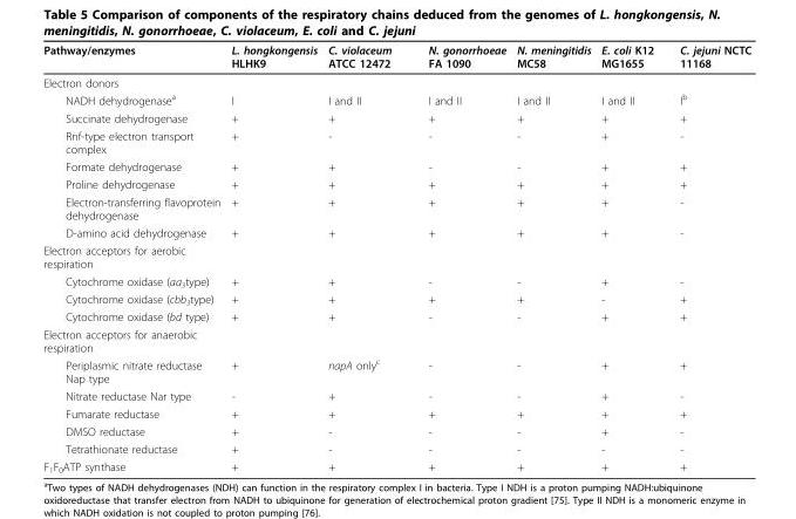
<table><thead><tr><td>Pathway/enzymes</td><td>L. hongkongensis HLHK9</td><td>C. violaceum ATCC 12472</td><td>N. gonorrhoeae FA 1090</td><td>N. meningitidis MC58</td><td>E. coli K12 MG1655</td><td>C. jejuni NCTC 11168</td></tr></thead><tbody><tr><td colspan="7">Electron donors</td></tr><tr><td>NADH dehydrogenase<sup>a</sup></td><td>I</td><td>I and II</td><td>I and II</td><td>I and II</td><td>I and II</td><td>I<sup>b</sup></td></tr><tr><td>Succinate dehydrogenase</td><td>+</td><td>+</td><td>+</td><td>+</td><td>+</td><td>+</td></tr><tr><td>Rnf-type electron transport complex</td><td>+</td><td>-</td><td>-</td><td>-</td><td>+</td><td>-</td></tr><tr><td>Formate dehydrogenase</td><td>+</td><td>+</td><td>-</td><td>-</td><td>+</td><td>+</td></tr><tr><td>Proline dehydrogenase</td><td>+</td><td>+</td><td>+</td><td>+</td><td>+</td><td>+</td></tr><tr><td>Electron-transferring flavoprotein dehydrogenase</td><td>+</td><td>+</td><td>+</td><td>+</td><td>+</td><td>-</td></tr><tr><td>D-amino acid dehydrogenase</td><td>+</td><td>+</td><td>+</td><td>+</td><td>+</td><td>-</td></tr><tr><td colspan="7">Electron acceptors for aerobic respiration</td></tr><tr><td>Cytochrome oxidase (aa<sub>3</sub>type)</td><td>+</td><td>+</td><td>-</td><td>-</td><td>+</td><td>-</td></tr><tr><td>Cytochrome oxidase (cbb<sub>3</sub>type)</td><td>+</td><td>+</td><td>+</td><td>+</td><td>-</td><td>+</td></tr><tr><td>Cytochrome oxidase (bd type)</td><td>+</td><td>+</td><td>-</td><td>-</td><td>+</td><td>+</td></tr><tr><td colspan="7">Electron acceptors for anaerobic respiration</td></tr><tr><td>Periplasmic nitrate reductase Nap type</td><td>+</td><td>napA only<sup>c</sup></td><td>-</td><td>-</td><td>+</td><td>+</td></tr><tr><td>Nitrate reductase Nar type</td><td>-</td><td>+</td><td>-</td><td>-</td><td>+</td><td>-</td></tr><tr><td>Fumarate reductase</td><td>+</td><td>+</td><td>+</td><td>+</td><td>+</td><td>+</td></tr><tr><td>DMSO reductase</td><td>+</td><td>-</td><td>-</td><td>-</td><td>+</td><td>-</td></tr><tr><td>Tetrathionate reductase</td><td>+</td><td>-</td><td>-</td><td>-</td><td>-</td><td>-</td></tr><tr><td>F<sub>1</sub>F<sub>0</sub>ATP synthase</td><td>+</td><td>+</td><td>+</td><td>+</td><td>+</td><td>+</td></tr></tbody></table>